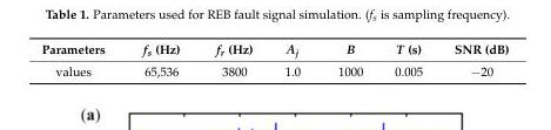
<table><thead><tr><td>Parameters</td><td>f<sub>s</sub> (Hz)</td><td>f<sub>r</sub> (Hz)</td><td>A<sub>j</sub></td><td>B</td><td>T (s)</td><td>SNR (dB)</td></tr></thead><tbody><tr><td>values</td><td>65,536</td><td>3800</td><td>1.0</td><td>1000</td><td>0.005</td><td>−20</td></tr></tbody></table>